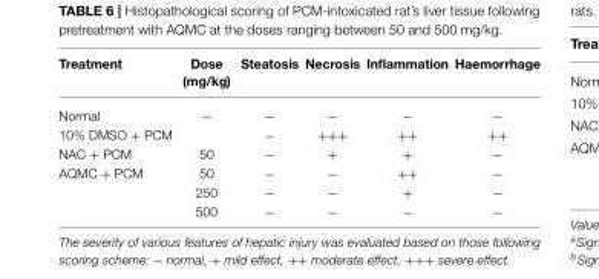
<table><thead><tr><td>Treatment</td><td>Dose (mg/kg)</td><td>Steatosis</td><td>Necrosis</td><td>Inflammation</td><td>Haemorrhage</td></tr></thead><tbody><tr><td>Normal</td><td>−</td><td>−</td><td>−</td><td>−</td><td>−</td></tr><tr><td>10% DMSO + PCM</td><td></td><td>−</td><td>+++</td><td>++</td><td>++</td></tr><tr><td>NAC + PCM</td><td>50</td><td>−</td><td>+</td><td>+</td><td>−</td></tr><tr><td rowspan="3">AQMC + PCM</td><td>50</td><td>−</td><td>−</td><td>++</td><td>−</td></tr><tr><td>250</td><td>−</td><td>−</td><td>+</td><td>−</td></tr><tr><td>500</td><td>−</td><td>−</td><td>−</td><td>−</td></tr></tbody></table>